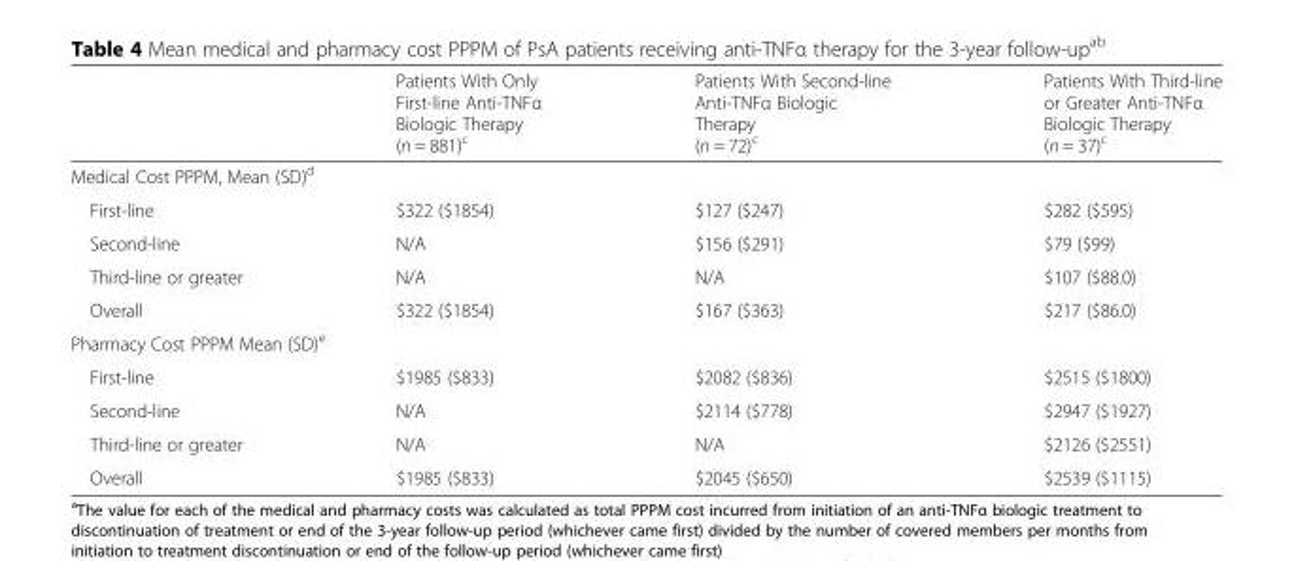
<table><thead><tr><td></td><td>Patients With Only First-line Anti-TNFα Biologic Therapy (n = 881)<sup>c</sup></td><td>Patients With Second-line Anti-TNFα Biologic Therapy (n = 72)<sup>c</sup></td><td>Patients With Third-line or Greater Anti-TNFα Biologic Therapy (n = 37)<sup>c</sup></td></tr></thead><tbody><tr><td colspan="4">Medical Cost PPPM, Mean (SD)<sup>d</sup></td></tr><tr><td>First-line</td><td>$322 ($1854)</td><td>$127 ($247)</td><td>$282 ($595)</td></tr><tr><td>Second-line</td><td>N/A</td><td>$156 ($291)</td><td>$79 ($99)</td></tr><tr><td>Third-line or greater</td><td>N/A</td><td>N/A</td><td>$107 ($88.0)</td></tr><tr><td>Overall</td><td>$322 ($1854)</td><td>$167 ($363)</td><td>$217 ($86.0)</td></tr><tr><td colspan="4">Pharmacy Cost PPPM Mean (SD)<sup>e</sup></td></tr><tr><td>First-line</td><td>$1985 ($833)</td><td>$2082 ($836)</td><td>$2515 ($1800)</td></tr><tr><td>Second-line</td><td>N/A</td><td>$2114 ($778)</td><td>$2947 ($1927)</td></tr><tr><td>Third-line or greater</td><td>N/A</td><td>N/A</td><td>$2126 ($2551)</td></tr><tr><td>Overall</td><td>$1985 ($833)</td><td>$2045 ($650)</td><td>$2539 ($1115)</td></tr></tbody></table>